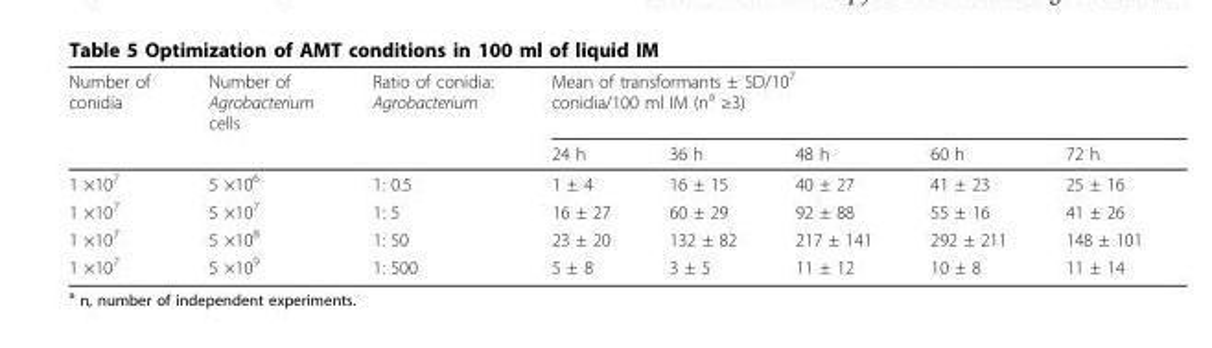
<table><thead><tr><td rowspan="2">Number of conidia</td><td rowspan="2">Number of Agrobacterium cells</td><td rowspan="2">Ratio of conidia: Agrobacterium</td><td colspan="4">Mean of transformants ± SD/10<sup>7</sup> conidia/100 ml IM (n<sup>a</sup> ≥3)</td><td rowspan="2">72 h</td></tr><tr><td>24 h</td><td>36 h</td><td>48 h</td><td>60 h</td></tr></thead><tbody><tr><td>1 ×10<sup>7</sup></td><td>5 ×10<sup>6</sup></td><td>1: 0.5</td><td>1 ± 4</td><td>16 ± 15</td><td>40 ± 27</td><td>41 ± 23</td><td>25 ± 16</td></tr><tr><td>1 ×10<sup>7</sup></td><td>5 ×10<sup>7</sup></td><td>1: 5</td><td>16 ± 27</td><td>60 ± 29</td><td>92 ± 88</td><td>55 ± 16</td><td>41 ± 26</td></tr><tr><td>1 ×10<sup>7</sup></td><td>5 ×10<sup>8</sup></td><td>1: 50</td><td>23 ± 20</td><td>132 ± 82</td><td>217 ± 141</td><td>292 ± 211</td><td>148 ± 101</td></tr><tr><td>1 ×10<sup>7</sup></td><td>5 ×10<sup>9</sup></td><td>1: 500</td><td>5 ± 8</td><td>3 ± 5</td><td>11 ± 12</td><td>10 ± 8</td><td>11 ± 14</td></tr></tbody></table>